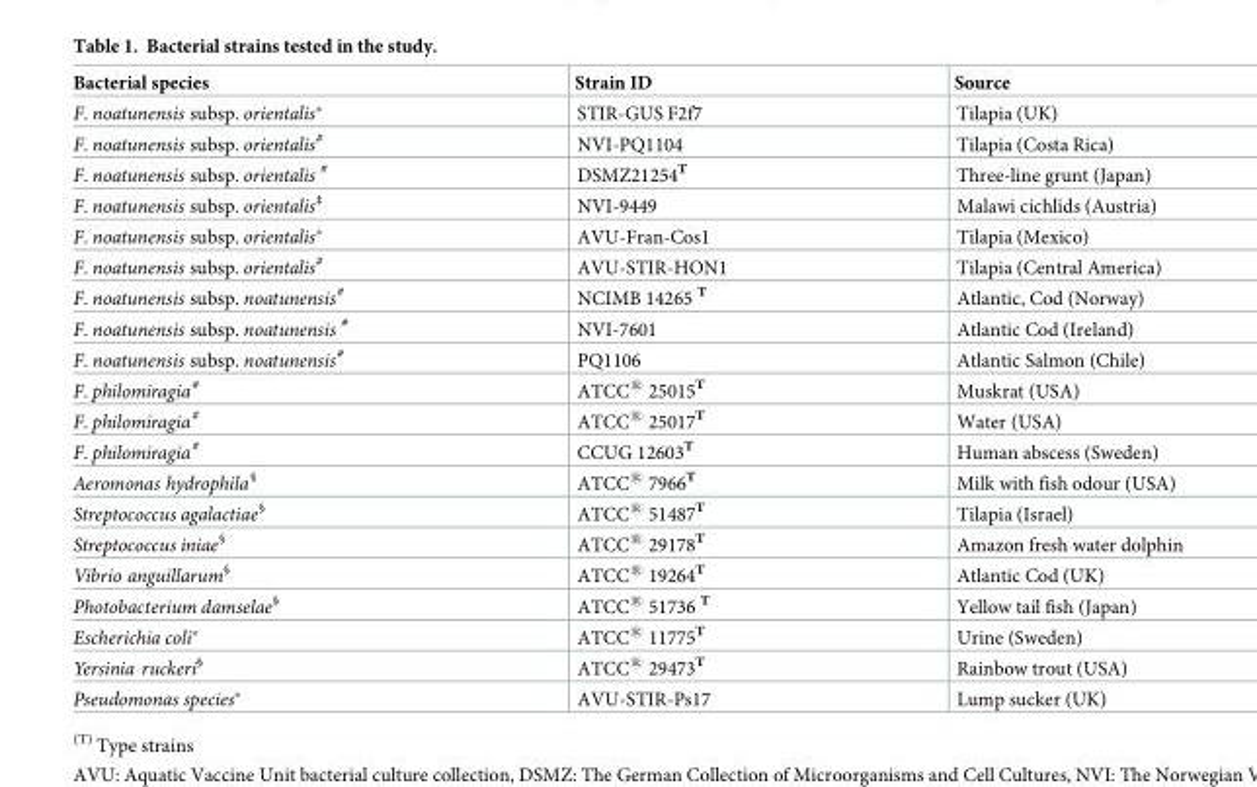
<table><thead><tr><td>Bacterial species</td><td>Strain ID</td><td>Source</td></tr></thead><tbody><tr><td>F. noatunensis subsp. orientalis*</td><td>STIR-GUS F2f7</td><td>Tilapia (UK)</td></tr><tr><td>F. noatunensis subsp. orientalis<sup>#</sup></td><td>NVI-PQ1104</td><td>Tilapia (Costa Rica)</td></tr><tr><td>F. noatunensis subsp. orientalis <sup>#</sup></td><td>DSMZ21254<sup>T</sup></td><td>Three-line grunt (Japan)</td></tr><tr><td>F. noatunensis subsp. orientalis<sup>‡</sup></td><td>NVI-9449</td><td>Malawi cichlids (Austria)</td></tr><tr><td>F. noatunensis subsp. orientalis*</td><td>AVU-Fran-Cos1</td><td>Tilapia (Mexico)</td></tr><tr><td>F. noatunensis subsp. orientalis<sup>#</sup></td><td>AVU-STIR-HON1</td><td>Tilapia (Central America)</td></tr><tr><td>F. noatunensis subsp. noatunensis<sup>#</sup></td><td>NCIMB 14265 <sup>T</sup></td><td>Atlantic, Cod (Norway)</td></tr><tr><td>F. noatunensis subsp. noatunensis <sup>#</sup></td><td>NVI-7601</td><td>Atlantic Cod (Ireland)</td></tr><tr><td>F. noatunensis subsp. noatunensis<sup>#</sup></td><td>PQ1106</td><td>Atlantic Salmon (Chile)</td></tr><tr><td>F. philomiragia<sup>#</sup></td><td>ATCC<sup>®</sup> 25015<sup>T</sup></td><td>Muskrat (USA)</td></tr><tr><td>F. philomiragia<sup>#</sup></td><td>ATCC<sup>®</sup> 25017<sup>T</sup></td><td>Water (USA)</td></tr><tr><td>F. philomiragia<sup>#</sup></td><td>CCUG 12603<sup>T</sup></td><td>Human abscess (Sweden)</td></tr><tr><td>Aeromonas hydrophila<sup>§</sup></td><td>ATCC<sup>®</sup> 7966<sup>T</sup></td><td>Milk with fish odour (USA)</td></tr><tr><td>Streptococcus agalactiae<sup>§</sup></td><td>ATCC<sup>®</sup> 51487<sup>T</sup></td><td>Tilapia (Israel)</td></tr><tr><td>Streptococcus iniae<sup>§</sup></td><td>ATCC<sup>®</sup> 29178<sup>T</sup></td><td>Amazon fresh water dolphin</td></tr><tr><td>Vibrio anguillarum<sup>§</sup></td><td>ATCC<sup>®</sup> 19264<sup>T</sup></td><td>Atlantic Cod (UK)</td></tr><tr><td>Photobacterium damselae<sup>§</sup></td><td>ATCC<sup>®</sup> 51736 <sup>T</sup></td><td>Yellow tail fish (Japan)</td></tr><tr><td>Escherichia coli*</td><td>ATCC<sup>®</sup> 11775<sup>T</sup></td><td>Urine (Sweden)</td></tr><tr><td>Yersinia ruckeri<sup>§</sup></td><td>ATCC<sup>®</sup> 29473<sup>T</sup></td><td>Rainbow trout (USA)</td></tr><tr><td>Pseudomonas species*</td><td>AVU-STIR-Ps17</td><td>Lump sucker (UK)</td></tr></tbody></table>